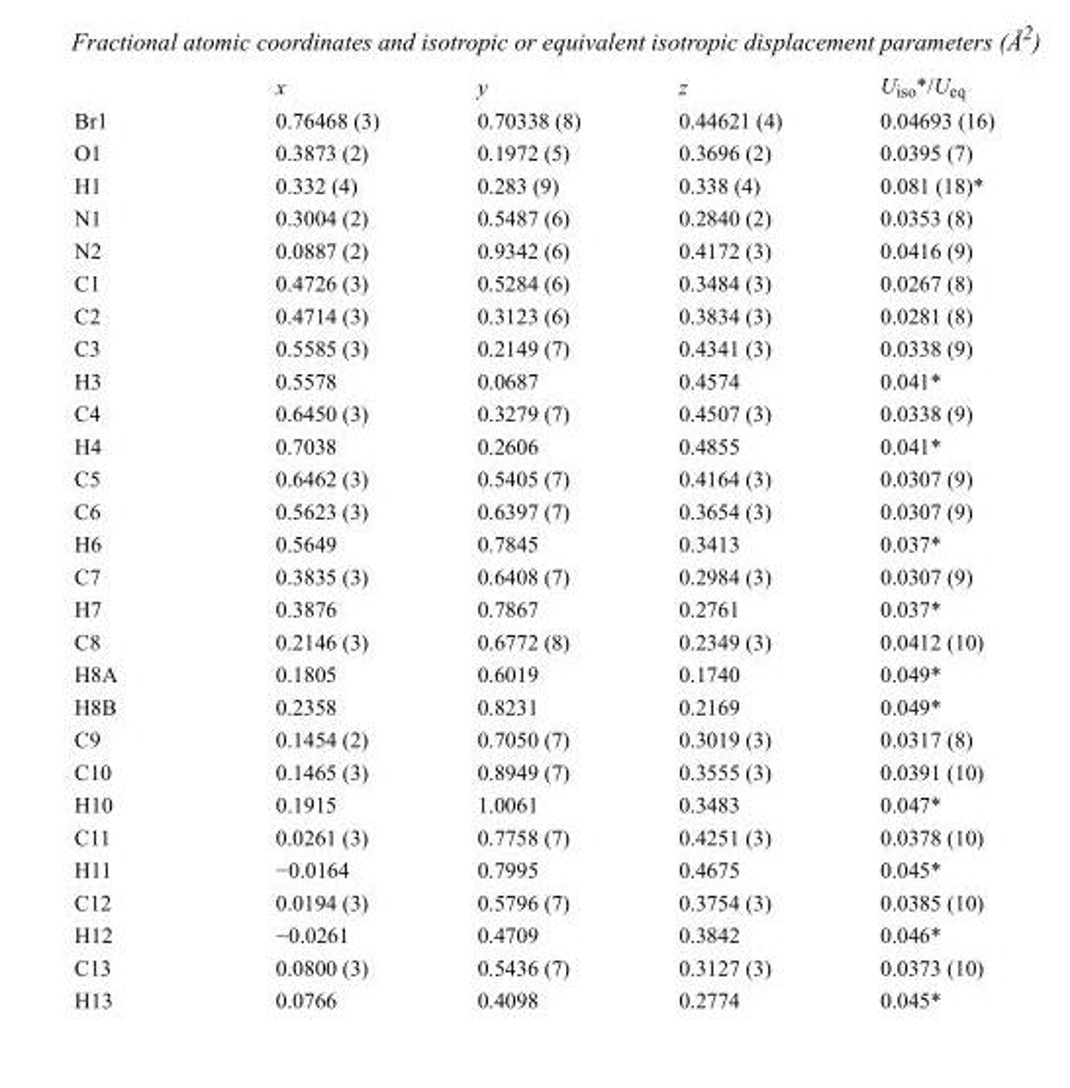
<table><thead><tr><td></td><td>x</td><td>y</td><td>z</td><td>U<sub>iso</sub>*/U<sub>eq</sub></td></tr></thead><tbody><tr><td>Br1</td><td>0.76468 (3)</td><td>0.70338 (8)</td><td>0.44621 (4)</td><td>0.04693 (16)</td></tr><tr><td>O1</td><td>0.3873 (2)</td><td>0.1972 (5)</td><td>0.3696 (2)</td><td>0.0395 (7)</td></tr><tr><td>H1</td><td>0.332 (4)</td><td>0.283 (9)</td><td>0.338 (4)</td><td>0.081 (18)*</td></tr><tr><td>N1</td><td>0.3004 (2)</td><td>0.5487 (6)</td><td>0.2840 (2)</td><td>0.0353 (8)</td></tr><tr><td>N2</td><td>0.0887 (2)</td><td>0.9342 (6)</td><td>0.4172 (3)</td><td>0.0416 (9)</td></tr><tr><td>C1</td><td>0.4726 (3)</td><td>0.5284 (6)</td><td>0.3484 (3)</td><td>0.0267 (8)</td></tr><tr><td>C2</td><td>0.4714 (3)</td><td>0.3123 (6)</td><td>0.3834 (3)</td><td>0.0281 (8)</td></tr><tr><td>C3</td><td>0.5585 (3)</td><td>0.2149 (7)</td><td>0.4341 (3)</td><td>0.0338 (9)</td></tr><tr><td>H3</td><td>0.5578</td><td>0.0687</td><td>0.4574</td><td>0.041*</td></tr><tr><td>C4</td><td>0.6450 (3)</td><td>0.3279 (7)</td><td>0.4507 (3)</td><td>0.0338 (9)</td></tr><tr><td>H4</td><td>0.7038</td><td>0.2606</td><td>0.4855</td><td>0.041*</td></tr><tr><td>C5</td><td>0.6462 (3)</td><td>0.5405 (7)</td><td>0.4164 (3)</td><td>0.0307 (9)</td></tr><tr><td>C6</td><td>0.5623 (3)</td><td>0.6397 (7)</td><td>0.3654 (3)</td><td>0.0307 (9)</td></tr><tr><td>H6</td><td>0.5649</td><td>0.7845</td><td>0.3413</td><td>0.037*</td></tr><tr><td>C7</td><td>0.3835 (3)</td><td>0.6408 (7)</td><td>0.2984 (3)</td><td>0.0307 (9)</td></tr><tr><td>H7</td><td>0.3876</td><td>0.7867</td><td>0.2761</td><td>0.037*</td></tr><tr><td>C8</td><td>0.2146 (3)</td><td>0.6772 (8)</td><td>0.2349 (3)</td><td>0.0412 (10)</td></tr><tr><td>H8A</td><td>0.1805</td><td>0.6019</td><td>0.1740</td><td>0.049*</td></tr><tr><td>H8B</td><td>0.2358</td><td>0.8231</td><td>0.2169</td><td>0.049*</td></tr><tr><td>C9</td><td>0.1454 (2)</td><td>0.7050 (7)</td><td>0.3019 (3)</td><td>0.0317 (8)</td></tr><tr><td>C10</td><td>0.1465 (3)</td><td>0.8949 (7)</td><td>0.3555 (3)</td><td>0.0391 (10)</td></tr><tr><td>H10</td><td>0.1915</td><td>1.0061</td><td>0.3483</td><td>0.047*</td></tr><tr><td>C11</td><td>0.0261 (3)</td><td>0.7758 (7)</td><td>0.4251 (3)</td><td>0.0378 (10)</td></tr><tr><td>H11</td><td>−0.0164</td><td>0.7995</td><td>0.4675</td><td>0.045*</td></tr><tr><td>C12</td><td>0.0194 (3)</td><td>0.5796 (7)</td><td>0.3754 (3)</td><td>0.0385 (10)</td></tr><tr><td>H12</td><td>−0.0261</td><td>0.4709</td><td>0.3842</td><td>0.046*</td></tr><tr><td>C13</td><td>0.0800 (3)</td><td>0.5436 (7)</td><td>0.3127 (3)</td><td>0.0373 (10)</td></tr><tr><td>H13</td><td>0.0766</td><td>0.4098</td><td>0.2774</td><td>0.045*</td></tr></tbody></table>